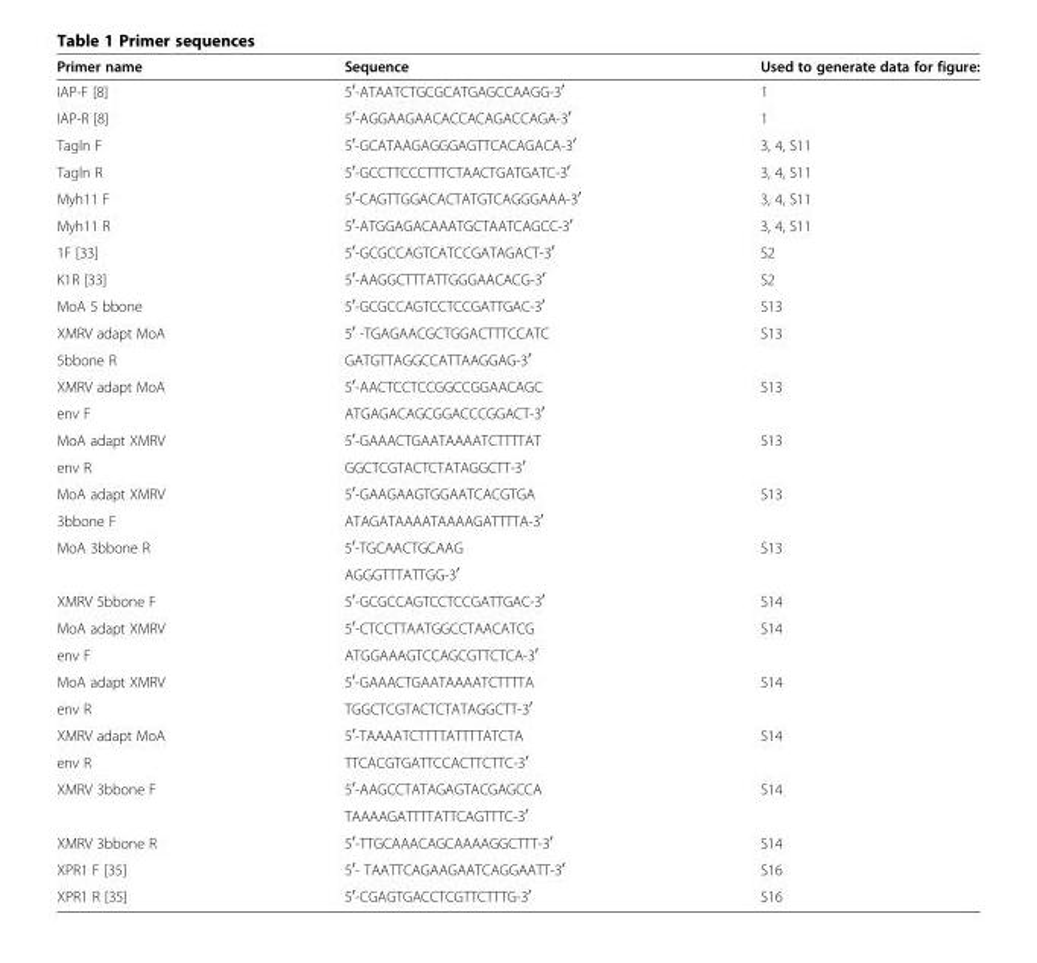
<table><thead><tr><td>Primer name</td><td>Sequence</td><td>Used to generate data for figure:</td></tr></thead><tbody><tr><td>IAP-F [8]</td><td>5<sup>′</sup>-ATAATCTGCGCATGAGCCAAGG-3<sup>′</sup></td><td>1</td></tr><tr><td>IAP-R [8]</td><td>5<sup>′</sup>-AGGAAGAACACCACAGACCAGA-3<sup>′</sup></td><td>1</td></tr><tr><td>Tagln F</td><td>5<sup>′</sup>-GCATAAGAGGGAGTTCACAGACA-3<sup>′</sup></td><td>3, 4, S11</td></tr><tr><td>Tagln R</td><td>5<sup>′</sup>-GCCTTCCCTTTCTAACTGATGATC-3<sup>′</sup></td><td>3, 4, S11</td></tr><tr><td>Myh11 F</td><td>5<sup>′</sup>-CAGTTGGACACTATGTCAGGGAAA-3<sup>′</sup></td><td>3, 4, S11</td></tr><tr><td>Myh11 R</td><td>5<sup>′</sup>-ATGGAGACAAATGCTAATCAGCC-3<sup>′</sup></td><td>3, 4, S11</td></tr><tr><td>1F [33]</td><td>5<sup>′</sup>-GCGCCAGTCATCCGATAGACT-3<sup>′</sup></td><td>S2</td></tr><tr><td>K1R [33]</td><td>5<sup>′</sup>-AAGGCTTTATTGGGAACACG-3<sup>′</sup></td><td>S2</td></tr><tr><td>MoA 5 bbone</td><td>5<sup>′</sup>-GCGCCAGTCCTCCGATTGAC-3<sup>′</sup></td><td>S13</td></tr><tr><td>XMRV adapt MoA</td><td>5<sup>′</sup> -TGAGAACGCTGGACTTTCCATC</td><td rowspan="2">S13</td></tr><tr><td>5bbone R</td><td>GATGTTAGGCCATTAAGGAG-3<sup>′</sup></td></tr><tr><td>XMRV adapt MoA</td><td>5<sup>′</sup>-AACTCCTCCGGCCGGAACAGC</td><td rowspan="2">S13</td></tr><tr><td>env F</td><td>ATGAGACAGCGGACCCGGACT-3<sup>′</sup></td></tr><tr><td>MoA adapt XMRV</td><td>5<sup>′</sup>-GAAACTGAATAAAATCTTTTAT</td><td rowspan="2">S13</td></tr><tr><td>env R</td><td>GGCTCGTACTCTATAGGCTT-3<sup>′</sup></td></tr><tr><td>MoA adapt XMRV</td><td>5<sup>′</sup>-GAAGAAGTGGAATCACGTGA</td><td rowspan="2">S13</td></tr><tr><td>3bbone F</td><td>ATAGATAAAATAAAAGATTTTA-3<sup>′</sup></td></tr><tr><td rowspan="2">MoA 3bbone R</td><td>5<sup>′</sup>-TGCAACTGCAAG</td><td rowspan="2">S13</td></tr><tr><td>AGGGTTTATTGG-3<sup>′</sup></td></tr><tr><td>XMRV 5bbone F</td><td>5<sup>′</sup>-GCGCCAGTCCTCCGATTGAC-3<sup>′</sup></td><td>S14</td></tr><tr><td>MoA adapt XMRV</td><td>5<sup>′</sup>-CTCCTTAATGGCCTAACATCG</td><td rowspan="2">S14</td></tr><tr><td>env F</td><td>ATGGAAAGTCCAGCGTTCTCA-3<sup>′</sup></td></tr><tr><td>MoA adapt XMRV</td><td>5<sup>′</sup>-GAAACTGAATAAAATCTTTTA</td><td rowspan="2">S14</td></tr><tr><td>env R</td><td>TGGCTCGTACTCTATAGGCTT-3<sup>′</sup></td></tr><tr><td>XMRV adapt MoA</td><td>5<sup>′</sup>-TAAAATCTTTTATTTTATCTA</td><td rowspan="2">S14</td></tr><tr><td>env R</td><td>TTCACGTGATTCCACTTCTTC-3<sup>′</sup></td></tr><tr><td rowspan="2">XMRV 3bbone F</td><td>5<sup>′</sup>-AAGCCTATAGAGTACGAGCCA</td><td rowspan="2">S14</td></tr><tr><td>TAAAAGATTTTATTCAGTTTC-3<sup>′</sup></td></tr><tr><td>XMRV 3bbone R</td><td>5<sup>′</sup>-TTGCAAACAGCAAAAGGCTTT-3<sup>′</sup></td><td>S14</td></tr><tr><td>XPR1 F [35]</td><td>5<sup>′</sup>- TAATTCAGAAGAATCAGGAATT-3<sup>′</sup></td><td>S16</td></tr><tr><td>XPR1 R [35]</td><td>5<sup>′</sup>-CGAGTGACCTCGTTCTTTG-3<sup>′</sup></td><td>S16</td></tr></tbody></table>